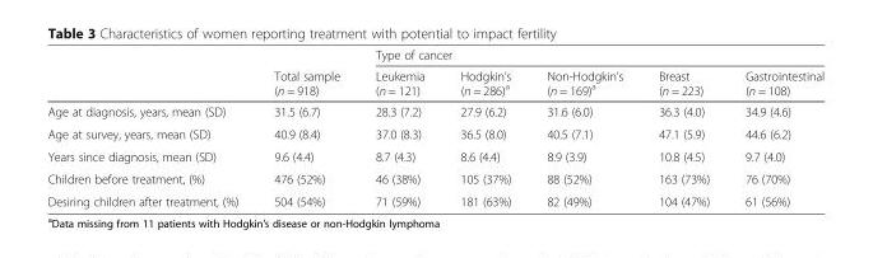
<table><thead><tr><td rowspan="2"></td><td rowspan="2">Total sample (n = 918)</td><td colspan="5">Type of cancer</td></tr><tr><td>Leukemia (n = 121)</td><td>Hodgkin’s (n = 286)<sup>a</sup></td><td>Non-Hodgkin’s (n = 169)<sup>a</sup></td><td>Breast (n = 223)</td><td>Gastrointestinal (n = 108)</td></tr></thead><tbody><tr><td>Age at diagnosis, years, mean (SD)</td><td>31.5 (6.7)</td><td>28.3 (7.2)</td><td>27.9 (6.2)</td><td>31.6 (6.0)</td><td>36.3 (4.0)</td><td>34.9 (4.6)</td></tr><tr><td>Age at survey, years, mean (SD)</td><td>40.9 (8.4)</td><td>37.0 (8.3)</td><td>36.5 (8.0)</td><td>40.5 (7.1)</td><td>47.1 (5.9)</td><td>44.6 (6.2)</td></tr><tr><td>Years since diagnosis, mean (SD)</td><td>9.6 (4.4)</td><td>8.7 (4.3)</td><td>8.6 (4.4)</td><td>8.9 (3.9)</td><td>10.8 (4.5)</td><td>9.7 (4.0)</td></tr><tr><td>Children before treatment, (%)</td><td>476 (52%)</td><td>46 (38%)</td><td>105 (37%)</td><td>88 (52%)</td><td>163 (73%)</td><td>76 (70%)</td></tr><tr><td>Desiring children after treatment, (%)</td><td>504 (54%)</td><td>71 (59%)</td><td>181 (63%)</td><td>82 (49%)</td><td>104 (47%)</td><td>61 (56%)</td></tr></tbody></table>